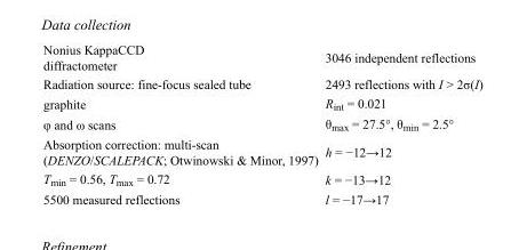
<table><tbody><tr><td>Nonius KappaCCD diffractometer</td><td>3046 independent reflections</td></tr><tr><td>Radiation source: fine-focus sealed tube</td><td>2493 reflections with I &gt; 2σ(I)</td></tr><tr><td>graphite</td><td>R<sub>int</sub> = 0.021</td></tr><tr><td>φ and ω scans</td><td>θ<sub>max</sub> = 27.5°, θ<sub>min</sub> = 2.5°</td></tr><tr><td>Absorption correction: multi-scan (DENZO/SCALEPACK; Otwinowski &amp; Minor, 1997)</td><td>h = −12→12</td></tr><tr><td>T<sub>min</sub> = 0.56, T<sub>max</sub> = 0.72</td><td>k = −13→12</td></tr><tr><td>5500 measured reflections</td><td>l = −17→17</td></tr></tbody></table>